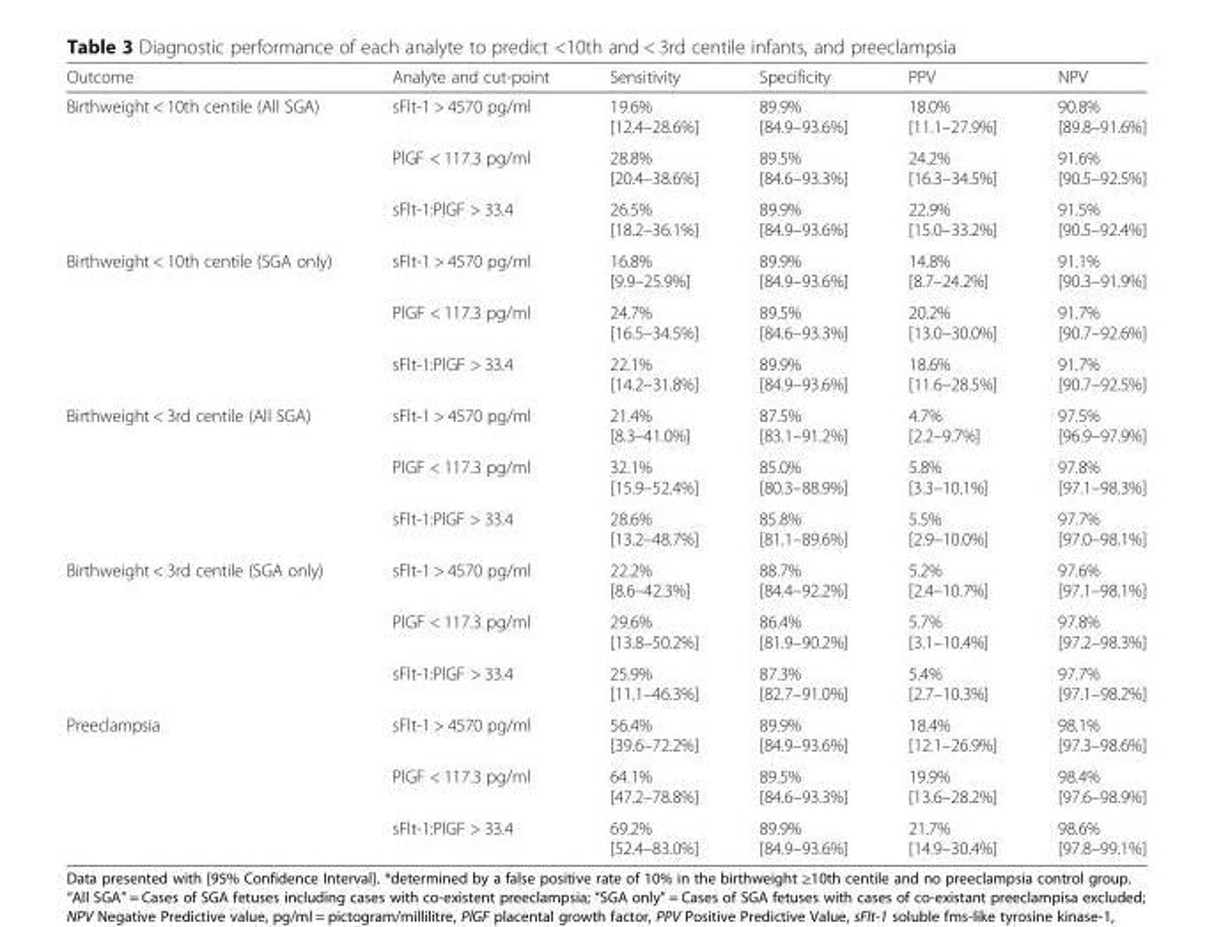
<table><thead><tr><td>Outcome</td><td>Analyte and cut-point</td><td>Sensitivity</td><td>Specificity</td><td>PPV</td><td>NPV</td></tr></thead><tbody><tr><td rowspan="3">Birthweight &lt; 10th centile (All SGA)</td><td>sFlt-1 &gt; 4570 pg/ml</td><td>19.6% [12.4–28.6%]</td><td>89.9% [84.9–93.6%]</td><td>18.0% [11.1–27.9%]</td><td>90.8% [89.8–91.6%]</td></tr><tr><td>PlGF &lt; 117.3 pg/ml</td><td>28.8% [20.4–38.6%]</td><td>89.5% [84.6–93.3%]</td><td>24.2% [16.3–34.5%]</td><td>91.6% [90.5–92.5%]</td></tr><tr><td>sFlt-1:PlGF &gt; 33.4</td><td>26.5% [18.2–36.1%]</td><td>89.9% [84.9–93.6%]</td><td>22.9% [15.0–33.2%]</td><td>91.5% [90.5–92.4%]</td></tr><tr><td rowspan="3">Birthweight &lt; 10th centile (SGA only)</td><td>sFlt-1 &gt; 4570 pg/ml</td><td>16.8% [9.9–25.9%]</td><td>89.9% [84.9–93.6%]</td><td>14.8% [8.7–24.2%]</td><td>91.1% [90.3–91.9%]</td></tr><tr><td>PlGF &lt; 117.3 pg/ml</td><td>24.7% [16.5–34.5%]</td><td>89.5% [84.6–93.3%]</td><td>20.2% [13.0–30.0%]</td><td>91.7% [90.7–92.6%]</td></tr><tr><td>sFlt-1:PlGF &gt; 33.4</td><td>22.1% [14.2–31.8%]</td><td>89.9% [84.9–93.6%]</td><td>18.6% [11.6–28.5%]</td><td>91.7% [90.7–92.5%]</td></tr><tr><td rowspan="3">Birthweight &lt; 3rd centile (All SGA)</td><td>sFlt-1 &gt; 4570 pg/ml</td><td>21.4% [8.3–41.0%]</td><td>87.5% [83.1–91.2%]</td><td>4.7% [2.2–9.7%]</td><td>97.5% [96.9–97.9%]</td></tr><tr><td>PlGF &lt; 117.3 pg/ml</td><td>32.1% [15.9–52.4%]</td><td>85.0% [80.3–88.9%]</td><td>5.8% [3.3–10.1%]</td><td>97.8% [97.1–98.3%]</td></tr><tr><td>sFlt-1:PlGF &gt; 33.4</td><td>28.6% [13.2–48.7%]</td><td>85.8% [81.1–89.6%]</td><td>5.5% [2.9–10.0%]</td><td>97.7% [97.0–98.1%]</td></tr><tr><td rowspan="3">Birthweight &lt; 3rd centile (SGA only)</td><td>sFlt-1 &gt; 4570 pg/ml</td><td>22.2% [8.6–42.3%]</td><td>88.7% [84.4–92.2%]</td><td>5.2% [2.4–10.7%]</td><td>97.6% [97.1–98.1%]</td></tr><tr><td>PlGF &lt; 117.3 pg/ml</td><td>29.6% [13.8–50.2%]</td><td>86.4% [81.9–90.2%]</td><td>5.7% [3.1–10.4%]</td><td>97.8% [97.2–98.3%]</td></tr><tr><td>sFlt-1:PlGF &gt; 33.4</td><td>25.9% [11.1–46.3%]</td><td>87.3% [82.7–91.0%]</td><td>5.4% [2.7–10.3%]</td><td>97.7% [97.1–98.2%]</td></tr><tr><td rowspan="3">Preeclampsia</td><td>sFlt-1 &gt; 4570 pg/ml</td><td>56.4% [39.6–72.2%]</td><td>89.9% [84.9–93.6%]</td><td>18.4% [12.1–26.9%]</td><td>98.1% [97.3–98.6%]</td></tr><tr><td>PlGF &lt; 117.3 pg/ml</td><td>64.1% [47.2–78.8%]</td><td>89.5% [84.6–93.3%]</td><td>19.9% [13.6–28.2%]</td><td>98.4% [97.6–98.9%]</td></tr><tr><td>sFlt-1:PlGF &gt; 33.4</td><td>69.2% [52.4–83.0%]</td><td>89.9% [84.9–93.6%]</td><td>21.7% [14.9–30.4%]</td><td>98.6% [97.8–99.1%]</td></tr></tbody></table>